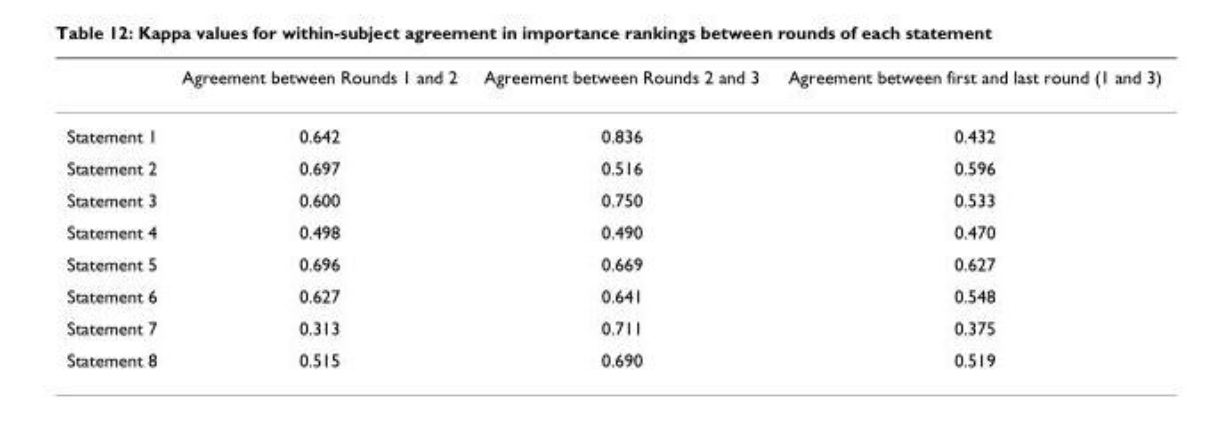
<table><thead><tr><td></td><td>Agreement between Rounds 1 and 2</td><td>Agreement between Rounds 2 and 3</td><td>Agreement between first and last round (1 and 3)</td></tr></thead><tbody><tr><td>Statement 1</td><td>0.642</td><td>0.836</td><td>0.432</td></tr><tr><td>Statement 2</td><td>0.697</td><td>0.516</td><td>0.596</td></tr><tr><td>Statement 3</td><td>0.600</td><td>0.750</td><td>0.533</td></tr><tr><td>Statement 4</td><td>0.498</td><td>0.490</td><td>0.470</td></tr><tr><td>Statement 5</td><td>0.696</td><td>0.669</td><td>0.627</td></tr><tr><td>Statement 6</td><td>0.627</td><td>0.641</td><td>0.548</td></tr><tr><td>Statement 7</td><td>0.313</td><td>0.711</td><td>0.375</td></tr><tr><td>Statement 8</td><td>0.515</td><td>0.690</td><td>0.519</td></tr></tbody></table>